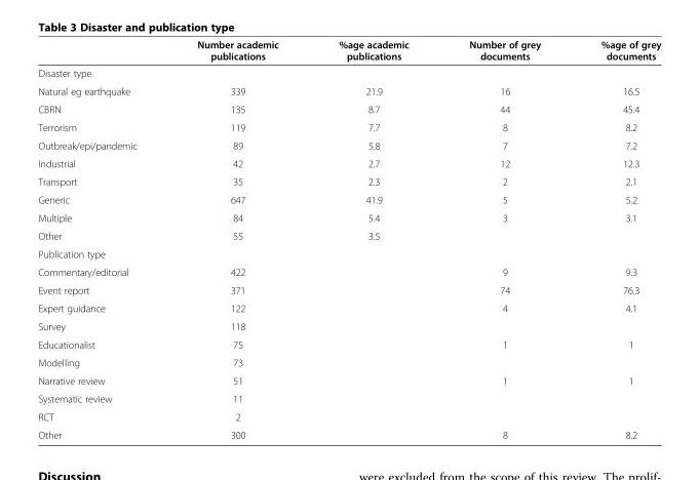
<table><thead><tr><td></td><td>Number academic publications</td><td>%age academic publications</td><td>Number of grey documents</td><td>%age of grey documents</td></tr></thead><tbody><tr><td colspan="5">Disaster type</td></tr><tr><td>Natural eg earthquake</td><td>339</td><td>21.9</td><td>16</td><td>16.5</td></tr><tr><td>CBRN</td><td>135</td><td>8.7</td><td>44</td><td>45.4</td></tr><tr><td>Terrorism</td><td>119</td><td>7.7</td><td>8</td><td>8.2</td></tr><tr><td>Outbreak/epi/pandemic</td><td>89</td><td>5.8</td><td>7</td><td>7.2</td></tr><tr><td>Industrial</td><td>42</td><td>2.7</td><td>12</td><td>12.3</td></tr><tr><td>Transport</td><td>35</td><td>2.3</td><td>2</td><td>2.1</td></tr><tr><td>Generic</td><td>647</td><td>41.9</td><td>5</td><td>5.2</td></tr><tr><td>Multiple</td><td>84</td><td>5.4</td><td>3</td><td>3.1</td></tr><tr><td>Other</td><td>55</td><td>3.5</td><td></td><td></td></tr><tr><td colspan="5">Publication type</td></tr><tr><td>Commentary/editorial</td><td>422</td><td></td><td>9</td><td>9.3</td></tr><tr><td>Event report</td><td>371</td><td></td><td>74</td><td>76.3</td></tr><tr><td>Expert guidance</td><td>122</td><td></td><td>4</td><td>4.1</td></tr><tr><td>Survey</td><td>118</td><td></td><td></td><td></td></tr><tr><td>Educationalist</td><td>75</td><td></td><td>1</td><td>1</td></tr><tr><td>Modelling</td><td>73</td><td></td><td></td><td></td></tr><tr><td>Narrative review</td><td>51</td><td></td><td>1</td><td>1</td></tr><tr><td>Systematic review</td><td>11</td><td></td><td></td><td></td></tr><tr><td>RCT</td><td>2</td><td></td><td></td><td></td></tr><tr><td>Other</td><td>300</td><td></td><td>8</td><td>8.2</td></tr></tbody></table>